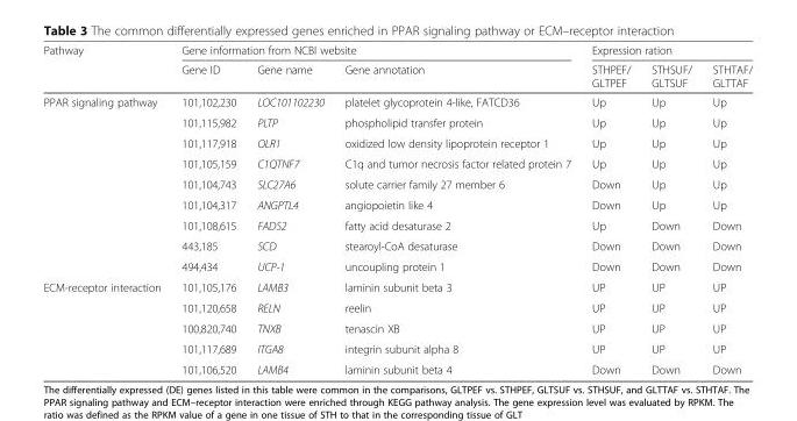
<table><thead><tr><td rowspan="2">Pathway</td><td colspan="3">Gene information from NCBI website</td><td colspan="3">Expression ration</td></tr><tr><td>Gene ID</td><td>Gene name</td><td>Gene annotation</td><td>STHPEF/ GLTPEF</td><td>STHSUF/ GLTSUF</td><td>STHTAF/ GLTTAF</td></tr></thead><tbody><tr><td rowspan="9">PPAR signaling pathway</td><td>101,102,230</td><td>LOC101102230</td><td>platelet glycoprotein 4-like, FATCD36</td><td>Up</td><td>Up</td><td>Up</td></tr><tr><td>101,115,982</td><td>PLTP</td><td>phospholipid transfer protein</td><td>Up</td><td>Up</td><td>Up</td></tr><tr><td>101,117,918</td><td>OLR1</td><td>oxidized low density lipoprotein receptor 1</td><td>Up</td><td>Up</td><td>Up</td></tr><tr><td>101,105,159</td><td>C1QTNF7</td><td>C1q and tumor necrosis factor related protein 7</td><td>Up</td><td>Up</td><td>Up</td></tr><tr><td>101,104,743</td><td>SLC27A6</td><td>solute carrier family 27 member 6</td><td>Down</td><td>Up</td><td>Up</td></tr><tr><td>101,104,317</td><td>ANGPTL4</td><td>angiopoietin like 4</td><td>Down</td><td>Up</td><td>Up</td></tr><tr><td>101,108,615</td><td>FADS2</td><td>fatty acid desaturase 2</td><td>Up</td><td>Down</td><td>Down</td></tr><tr><td>443,185</td><td>SCD</td><td>stearoyl-CoA desaturase</td><td>Down</td><td>Down</td><td>Down</td></tr><tr><td>494,434</td><td>UCP-1</td><td>uncoupling protein 1</td><td>Down</td><td>Down</td><td>Down</td></tr><tr><td rowspan="5">ECM-receptor interaction</td><td>101,105,176</td><td>LAMB3</td><td>laminin subunit beta 3</td><td>UP</td><td>UP</td><td>UP</td></tr><tr><td>101,120,658</td><td>RELN</td><td>reelin</td><td>UP</td><td>UP</td><td>UP</td></tr><tr><td>100,820,740</td><td>TNXB</td><td>tenascin XB</td><td>UP</td><td>UP</td><td>UP</td></tr><tr><td>101,117,689</td><td>ITGA8</td><td>integrin subunit alpha 8</td><td>UP</td><td>UP</td><td>UP</td></tr><tr><td>101,106,520</td><td>LAMB4</td><td>laminin subunit beta 4</td><td>Down</td><td>Down</td><td>Down</td></tr></tbody></table>